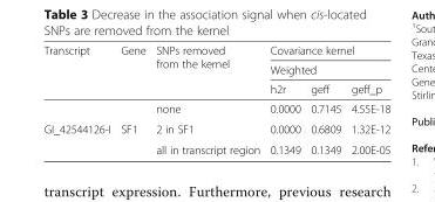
<table><thead><tr><td rowspan="3">Transcript</td><td rowspan="3">Gene</td><td rowspan="3">SNPs removed from the kernel</td><td rowspan="2" colspan="3">Covariance kernel Weighted</td></tr><tr></tr><tr><td>h2r</td><td>geff</td><td>geff_p</td></tr></thead><tbody><tr><td></td><td></td><td>none</td><td>0.0000</td><td>0.7145</td><td>4.55E-18</td></tr><tr><td rowspan="2">GI_42544126-I</td><td>SF1</td><td>2 in SF1</td><td>0.0000</td><td>0.6809</td><td>1.32E-12</td></tr><tr><td></td><td>all in transcript region</td><td>0.1349</td><td>0.1349</td><td>2.00E-05</td></tr></tbody></table>